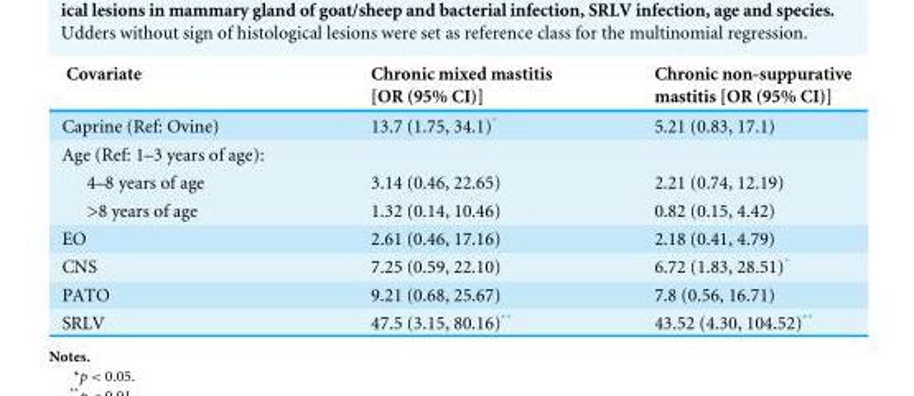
<table><thead><tr><td>Covariate</td><td>Chronic mixed mastitis [OR (95% CI)]</td><td>Chronic non-suppurative mastitis [OR (95% CI)]</td></tr></thead><tbody><tr><td>Caprine (Ref: Ovine)</td><td>13.7 (1.75, 34.1)*</td><td>5.21 (0.83, 17.1)</td></tr><tr><td colspan="3">Age (Ref: 1–3 years of age):</td></tr><tr><td>4–8 years of age</td><td>3.14 (0.46, 22.65)</td><td>2.21 (0.74, 12.19)</td></tr><tr><td>&gt;8 years of age</td><td>1.32 (0.14, 10.46)</td><td>0.82 (0.15, 4.42)</td></tr><tr><td>EO</td><td>2.61 (0.46, 17.16)</td><td>2.18 (0.41, 4.79)</td></tr><tr><td>CNS</td><td>7.25 (0.59, 22.10)</td><td>6.72 (1.83, 28.51)*</td></tr><tr><td>PATO</td><td>9.21 (0.68, 25.67)</td><td>7.8 (0.56, 16.71)</td></tr><tr><td>SRLV</td><td>47.5 (3.15, 80.16)**</td><td>43.52 (4.30, 104.52)**</td></tr></tbody></table>